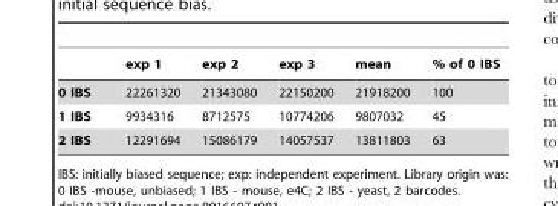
<table><thead><tr><td></td><td>exp 1</td><td>exp 2</td><td>exp 3</td><td>mean</td><td>% of 0 IBS</td></tr></thead><tbody><tr><td>0 IBS</td><td>22261320</td><td>21343080</td><td>22150200</td><td>21918200</td><td>100</td></tr><tr><td>1 IBS</td><td>9934316</td><td>8712575</td><td>10774206</td><td>9807032</td><td>45</td></tr><tr><td>2 IBS</td><td>12291694</td><td>15086179</td><td>14057537</td><td>13811803</td><td>63</td></tr></tbody></table>